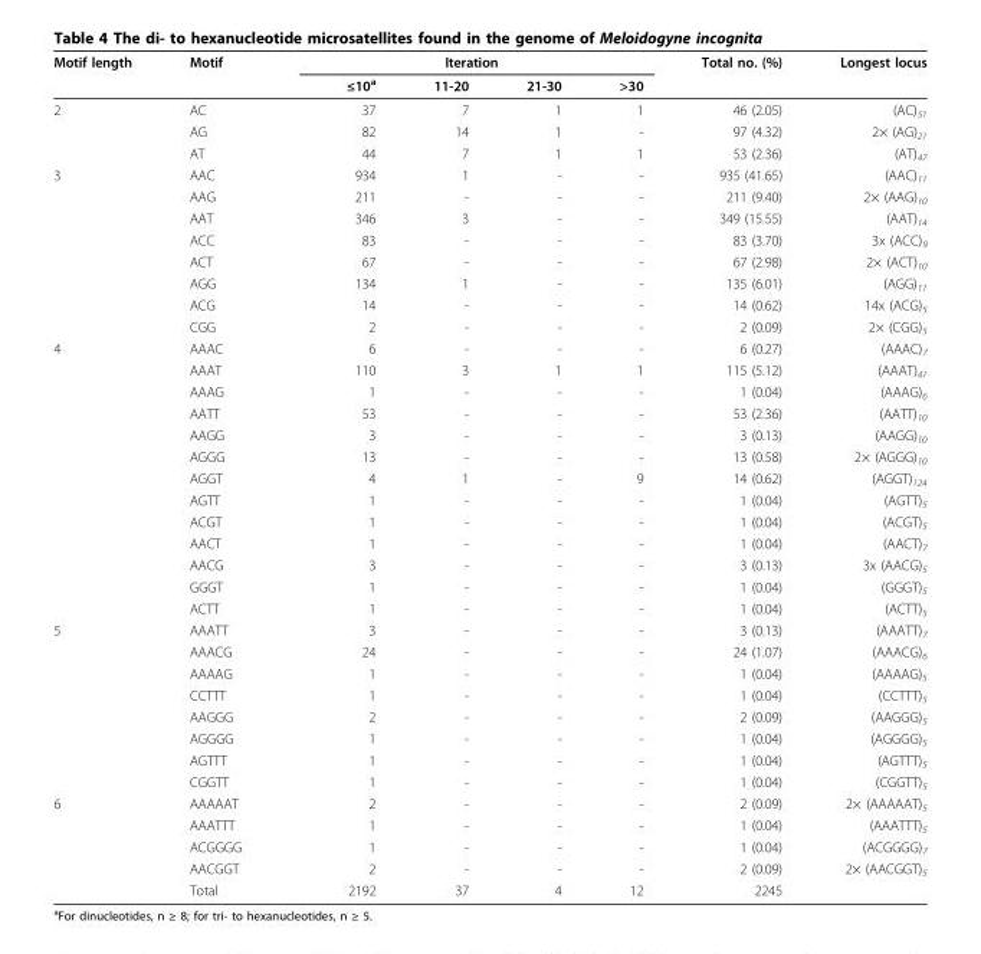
<table><thead><tr><td rowspan="2">Motif length</td><td rowspan="2">Motif</td><td colspan="4">Iteration</td><td rowspan="2">Total no. (%)</td><td rowspan="2">Longest locus</td></tr><tr><td>≤10<sup>a</sup></td><td>11-20</td><td>21-30</td><td>&gt;30</td></tr></thead><tbody><tr><td rowspan="3">2</td><td>AC</td><td>37</td><td>7</td><td>1</td><td>1</td><td>46 (2.05)</td><td>(AC)<sub>51</sub></td></tr><tr><td>AG</td><td>82</td><td>14</td><td>1</td><td>-</td><td>97 (4.32)</td><td>2× (AG)<sub>21</sub></td></tr><tr><td>AT</td><td>44</td><td>7</td><td>1</td><td>1</td><td>53 (2.36)</td><td>(AT)<sub>47</sub></td></tr><tr><td rowspan="8">3</td><td>AAC</td><td>934</td><td>1</td><td>-</td><td>-</td><td>935 (41.65)</td><td>(AAC)<sub>11</sub></td></tr><tr><td>AAG</td><td>211</td><td>-</td><td>-</td><td>-</td><td>211 (9.40)</td><td>2× (AAG)<sub>10</sub></td></tr><tr><td>AAT</td><td>346</td><td>3</td><td>-</td><td>-</td><td>349 (15.55)</td><td>(AAT)<sub>14</sub></td></tr><tr><td>ACC</td><td>83</td><td>-</td><td>-</td><td>-</td><td>83 (3.70)</td><td>3x (ACC)<sub>9</sub></td></tr><tr><td>ACT</td><td>67</td><td>-</td><td>-</td><td>-</td><td>67 (2.98)</td><td>2× (ACT)<sub>10</sub></td></tr><tr><td>AGG</td><td>134</td><td>1</td><td>-</td><td>-</td><td>135 (6.01)</td><td>(AGG)<sub>11</sub></td></tr><tr><td>ACG</td><td>14</td><td>-</td><td>-</td><td>-</td><td>14 (0.62)</td><td>14x (ACG)<sub>5</sub></td></tr><tr><td>CGG</td><td>2</td><td>-</td><td>-</td><td>-</td><td>2 (0.09)</td><td>2× (CGG)<sub>5</sub></td></tr><tr><td rowspan="13">4</td><td>AAAC</td><td>6</td><td>-</td><td>-</td><td>-</td><td>6 (0.27)</td><td>(AAAC)<sub>7</sub></td></tr><tr><td>AAAT</td><td>110</td><td>3</td><td>1</td><td>1</td><td>115 (5.12)</td><td>(AAAT)<sub>41</sub></td></tr><tr><td>AAAG</td><td>1</td><td>-</td><td>-</td><td>-</td><td>1 (0.04)</td><td>(AAAG)<sub>6</sub></td></tr><tr><td>AATT</td><td>53</td><td>-</td><td>-</td><td>-</td><td>53 (2.36)</td><td>(AATT)<sub>10</sub></td></tr><tr><td>AAGG</td><td>3</td><td>-</td><td>-</td><td>-</td><td>3 (0.13)</td><td>(AAGG)<sub>10</sub></td></tr><tr><td>AGGG</td><td>13</td><td>-</td><td>-</td><td>-</td><td>13 (0.58)</td><td>2× (AGGG)<sub>10</sub></td></tr><tr><td>AGGT</td><td>4</td><td>1</td><td>-</td><td>9</td><td>14 (0.62)</td><td>(AGGT)<sub>124</sub></td></tr><tr><td>AGTT</td><td>1</td><td>-</td><td>-</td><td>-</td><td>1 (0.04)</td><td>(AGTT)<sub>5</sub></td></tr><tr><td>ACGT</td><td>1</td><td>-</td><td>-</td><td>-</td><td>1 (0.04)</td><td>(ACGT)<sub>5</sub></td></tr><tr><td>AACT</td><td>1</td><td>-</td><td>-</td><td>-</td><td>1 (0.04)</td><td>(AACT)<sub>7</sub></td></tr><tr><td>AACG</td><td>3</td><td>-</td><td>-</td><td>-</td><td>3 (0.13)</td><td>3x (AACG)<sub>5</sub></td></tr><tr><td>GGGT</td><td>1</td><td>-</td><td>-</td><td>-</td><td>1 (0.04)</td><td>(GGGT)<sub>5</sub></td></tr><tr><td>ACTT</td><td>1</td><td>-</td><td>-</td><td>-</td><td>1 (0.04)</td><td>(ACTT)<sub>5</sub></td></tr><tr><td rowspan="8">5</td><td>AAATT</td><td>3</td><td>-</td><td>-</td><td>-</td><td>3 (0.13)</td><td>(AAATT)<sub>7</sub></td></tr><tr><td>AAACG</td><td>24</td><td>-</td><td>-</td><td>-</td><td>24 (1.07)</td><td>(AAACG)<sub>6</sub></td></tr><tr><td>AAAAG</td><td>1</td><td>-</td><td>-</td><td>-</td><td>1 (0.04)</td><td>(AAAAG)<sub>5</sub></td></tr><tr><td>CCTTT</td><td>1</td><td>-</td><td>-</td><td>-</td><td>1 (0.04)</td><td>(CCTTT)<sub>5</sub></td></tr><tr><td>AAGGG</td><td>2</td><td>-</td><td>-</td><td>-</td><td>2 (0.09)</td><td>(AAGGG)<sub>5</sub></td></tr><tr><td>AGGGG</td><td>1</td><td>-</td><td>-</td><td>-</td><td>1 (0.04)</td><td>(AGGGG)<sub>5</sub></td></tr><tr><td>AGTTT</td><td>1</td><td>-</td><td>-</td><td>-</td><td>1 (0.04)</td><td>(AGTTT)<sub>5</sub></td></tr><tr><td>CGGTT</td><td>1</td><td>-</td><td>-</td><td>-</td><td>1 (0.04)</td><td>(CGGTT)<sub>5</sub></td></tr><tr><td rowspan="5">6</td><td>AAAAAT</td><td>2</td><td>-</td><td>-</td><td>-</td><td>2 (0.09)</td><td>2× (AAAAAT)<sub>5</sub></td></tr><tr><td>AAATTT</td><td>1</td><td>-</td><td>-</td><td>-</td><td>1 (0.04)</td><td>(AAATTT)<sub>5</sub></td></tr><tr><td>ACGGGG</td><td>1</td><td>-</td><td>-</td><td>-</td><td>1 (0.04)</td><td>(ACGGGG)<sub>7</sub></td></tr><tr><td>AACGGT</td><td>2</td><td>-</td><td>-</td><td>-</td><td>2 (0.09)</td><td>2× (AACGGT)<sub>5</sub></td></tr><tr><td>Total</td><td>2192</td><td>37</td><td>4</td><td>12</td><td>2245</td><td></td></tr></tbody></table>